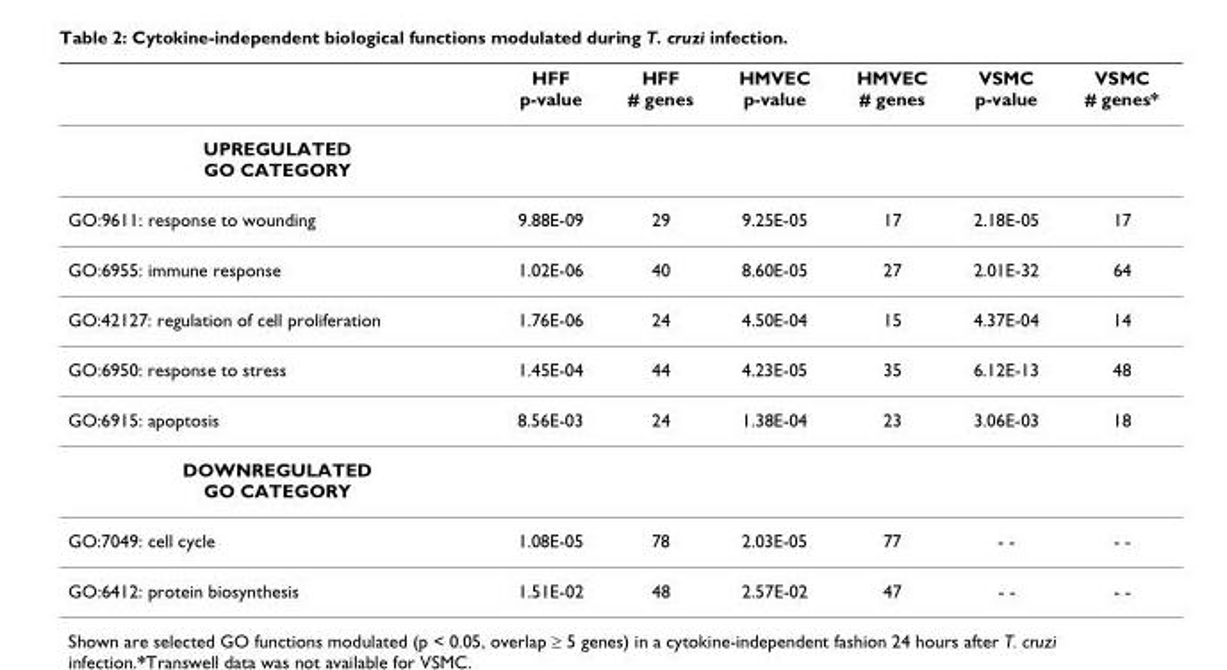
<table><thead><tr><td></td><td>HFF p-value</td><td>HFF # genes</td><td>HMVEC p-value</td><td>HMVEC # genes</td><td>VSMC p-value</td><td>VSMC # genes*</td></tr></thead><tbody><tr><td colspan="7">UPREGULATED GO CATEGORY</td></tr><tr><td>GO:9611: response to wounding</td><td>9.88E-09</td><td>29</td><td>9.25E-05</td><td>17</td><td>2.18E-05</td><td>17</td></tr><tr><td>GO:6955: immune response</td><td>1.02E-06</td><td>40</td><td>8.60E-05</td><td>27</td><td>2.01E-32</td><td>64</td></tr><tr><td>GO:42127: regulation of cell proliferation</td><td>1.76E-06</td><td>24</td><td>4.50E-04</td><td>15</td><td>4.37E-04</td><td>14</td></tr><tr><td>GO:6950: response to stress</td><td>1.45E-04</td><td>44</td><td>4.23E-05</td><td>35</td><td>6.12E-13</td><td>48</td></tr><tr><td>GO:6915: apoptosis</td><td>8.56E-03</td><td>24</td><td>1.38E-04</td><td>23</td><td>3.06E-03</td><td>18</td></tr><tr><td colspan="7">DOWNREGULATED GO CATEGORY</td></tr><tr><td>GO:7049: cell cycle</td><td>1.08E-05</td><td>78</td><td>2.03E-05</td><td>77</td><td>- -</td><td>- -</td></tr><tr><td>GO:6412: protein biosynthesis</td><td>1.51E-02</td><td>48</td><td>2.57E-02</td><td>47</td><td>- -</td><td>- -</td></tr></tbody></table>